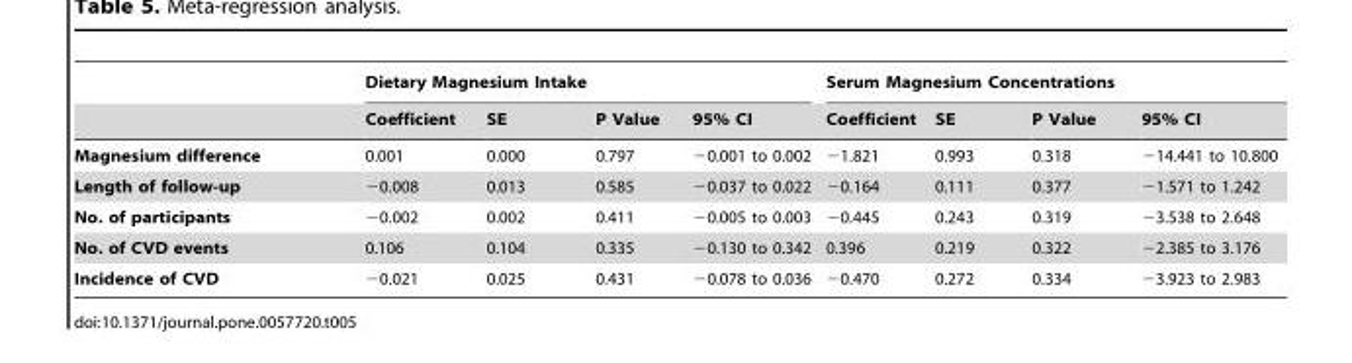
<table><thead><tr><td rowspan="2"></td><td colspan="4">Dietary Magnesium Intake</td><td colspan="4">Serum Magnesium Concentrations</td></tr><tr><td>Coefficient</td><td>SE</td><td>P Value</td><td>95% CI</td><td>Coefficient</td><td>SE</td><td>P Value</td><td>95% CI</td></tr></thead><tbody><tr><td>Magnesium difference</td><td>0.001</td><td>0.000</td><td>0.797</td><td>−0.001 to 0.002</td><td>−1.821</td><td>0.993</td><td>0.318</td><td>−14.441 to 10.800</td></tr><tr><td>Length of follow-up</td><td>−0.008</td><td>0.013</td><td>0.585</td><td>−0.037 to 0.022</td><td>−0.164</td><td>0.111</td><td>0.377</td><td>−1.571 to 1.242</td></tr><tr><td>No. of participants</td><td>−0.002</td><td>0.002</td><td>0.411</td><td>−0.005 to 0.003</td><td>−0.445</td><td>0.243</td><td>0.319</td><td>−3.538 to 2.648</td></tr><tr><td>No. of CVD events</td><td>0.106</td><td>0.104</td><td>0.335</td><td>−0.130 to 0.342</td><td>0.396</td><td>0.219</td><td>0.322</td><td>−2.385 to 3.176</td></tr><tr><td>Incidence of CVD</td><td>−0.021</td><td>0.025</td><td>0.431</td><td>−0.078 to 0.036</td><td>−0.470</td><td>0.272</td><td>0.334</td><td>−3.923 to 2.983</td></tr></tbody></table>